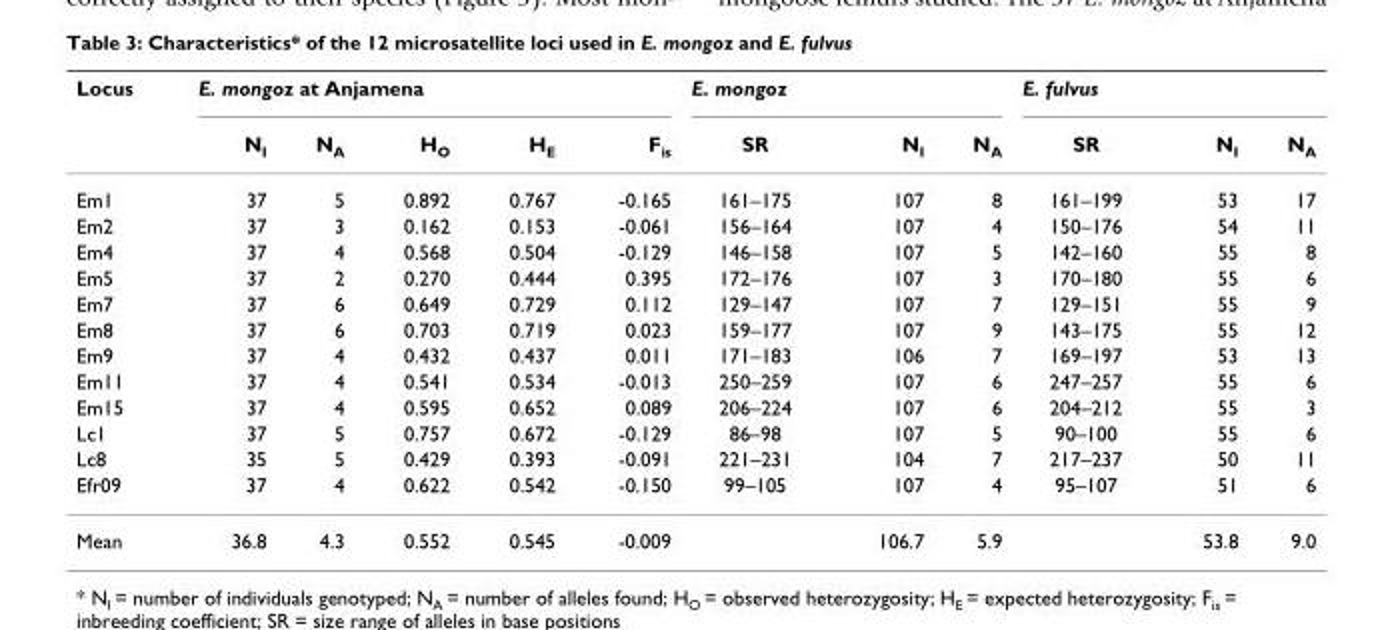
<table><thead><tr><td rowspan="2">Locus</td><td colspan="5">E. mongoz at Anjamena</td><td colspan="3">E. mongoz</td><td colspan="3">E. fulvus</td></tr><tr><td>N<sub>I</sub></td><td>N<sub>A</sub></td><td>H<sub>O</sub></td><td>H<sub>E</sub></td><td>F<sub>is</sub></td><td>SR</td><td>N<sub>I</sub></td><td>N<sub>A</sub></td><td>SR</td><td>N<sub>I</sub></td><td>N<sub>A</sub></td></tr></thead><tbody><tr><td>Em1</td><td>37</td><td>5</td><td>0.892</td><td>0.767</td><td>-0.165</td><td>161–175</td><td>107</td><td>8</td><td>161–199</td><td>53</td><td>17</td></tr><tr><td>Em2</td><td>37</td><td>3</td><td>0.162</td><td>0.153</td><td>-0.061</td><td>156–164</td><td>107</td><td>4</td><td>150–176</td><td>54</td><td>11</td></tr><tr><td>Em4</td><td>37</td><td>4</td><td>0.568</td><td>0.504</td><td>-0.129</td><td>146–158</td><td>107</td><td>5</td><td>142–160</td><td>55</td><td>8</td></tr><tr><td>Em5</td><td>37</td><td>2</td><td>0.270</td><td>0.444</td><td>0.395</td><td>172–176</td><td>107</td><td>3</td><td>170–180</td><td>55</td><td>6</td></tr><tr><td>Em7</td><td>37</td><td>6</td><td>0.649</td><td>0.729</td><td>0.112</td><td>129–147</td><td>107</td><td>7</td><td>129–151</td><td>55</td><td>9</td></tr><tr><td>Em8</td><td>37</td><td>6</td><td>0.703</td><td>0.719</td><td>0.023</td><td>159–177</td><td>107</td><td>9</td><td>143–175</td><td>55</td><td>12</td></tr><tr><td>Em9</td><td>37</td><td>4</td><td>0.432</td><td>0.437</td><td>0.011</td><td>171–183</td><td>106</td><td>7</td><td>169–197</td><td>53</td><td>13</td></tr><tr><td>Em11</td><td>37</td><td>4</td><td>0.541</td><td>0.534</td><td>-0.013</td><td>250–259</td><td>107</td><td>6</td><td>247–257</td><td>55</td><td>6</td></tr><tr><td>Em15</td><td>37</td><td>4</td><td>0.595</td><td>0.652</td><td>0.089</td><td>206–224</td><td>107</td><td>6</td><td>204–212</td><td>55</td><td>3</td></tr><tr><td>Lc1</td><td>37</td><td>5</td><td>0.757</td><td>0.672</td><td>-0.129</td><td>86–98</td><td>107</td><td>5</td><td>90–100</td><td>55</td><td>6</td></tr><tr><td>Lc8</td><td>35</td><td>5</td><td>0.429</td><td>0.393</td><td>-0.091</td><td>221–231</td><td>104</td><td>7</td><td>217–237</td><td>50</td><td>11</td></tr><tr><td>Efr09</td><td>37</td><td>4</td><td>0.622</td><td>0.542</td><td>-0.150</td><td>99–105</td><td>107</td><td>4</td><td>95–107</td><td>51</td><td>6</td></tr><tr><td>Mean</td><td>36.8</td><td>4.3</td><td>0.552</td><td>0.545</td><td>-0.009</td><td></td><td>106.7</td><td>5.9</td><td></td><td>53.8</td><td>9.0</td></tr></tbody></table>